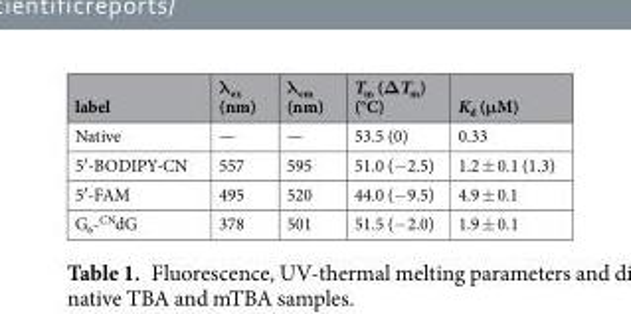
<table><thead><tr><td>label</td><td>λ<sub>ex</sub> (nm)</td><td>λ<sub>em</sub> (nm)</td><td>T<sub>m</sub> (ΔT<sub>m</sub>) (°C)</td><td>K<sub>d</sub> (μM)</td></tr></thead><tbody><tr><td>Native</td><td>—</td><td>—</td><td>53.5 (0)</td><td>0.33</td></tr><tr><td>5′-BODIPY-CN</td><td>557</td><td>595</td><td>51.0 (−2.5)</td><td>1.2 ± 0.1 (1.3)</td></tr><tr><td>5′-FAM</td><td>495</td><td>520</td><td>44.0 (−9.5)</td><td>4.9 ± 0.1</td></tr><tr><td>G<sub>6</sub>-<sup>CN</sup>dG</td><td>378</td><td>501</td><td>51.5 (−2.0)</td><td>1.9 ± 0.1</td></tr></tbody></table>